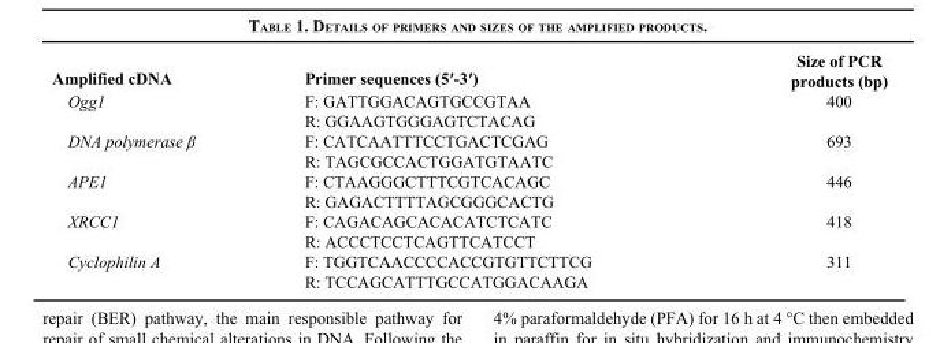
<table><thead><tr><td>Amplified cDNA</td><td>Primer sequences (5′-3′)</td><td>Size of PCR products (bp)</td></tr></thead><tbody><tr><td rowspan="2">Ogg1</td><td>F: GATTGGACAGTGCCGTAA</td><td>400</td></tr><tr><td>R: GGAAGTGGGAGTCTACAG</td><td></td></tr><tr><td rowspan="2">DNA polymerase β</td><td>F: CATCAATTTCCTGACTCGAG</td><td>693</td></tr><tr><td>R: TAGCGCCACTGGATGTAATC</td><td></td></tr><tr><td rowspan="2">APE1</td><td>F: CTAAGGGCTTTCGTCACAGC</td><td>446</td></tr><tr><td>R: GAGACTTTTAGCGGGCACTG</td><td></td></tr><tr><td rowspan="2">XRCC1</td><td>F: CAGACAGCACACATCTCATC</td><td>418</td></tr><tr><td>R: ACCCTCCTCAGTTCATCCT</td><td></td></tr><tr><td rowspan="2">Cyclophilin A</td><td>F: TGGTCAACCCCACCGTGTTCTTCG</td><td>311</td></tr><tr><td>R: TCCAGCATTTGCCATGGACAAGA</td><td></td></tr></tbody></table>